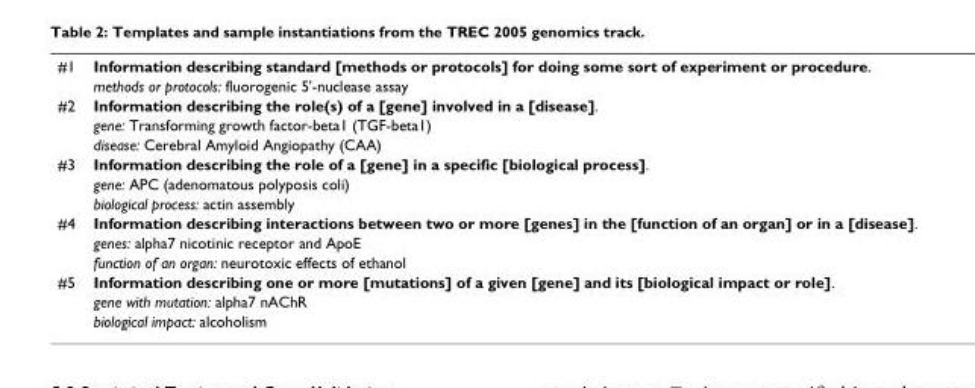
<table><tbody><tr><td rowspan="2">#1</td><td>Information describing standard [methods or protocols] for doing some sort of experiment or procedure.</td></tr><tr><td>methods or protocols: fluorogenic 5&#x27;-nuclease assay</td></tr><tr><td rowspan="3">#2</td><td>Information describing the role(s) of a [gene] involved in a [disease].</td></tr><tr><td>gene: Transforming growth factor-beta1 (TGF-beta1)</td></tr><tr><td>disease: Cerebral Amyloid Angiopathy (CAA)</td></tr><tr><td rowspan="3">#3</td><td>Information describing the role of a [gene] in a specific [biological process].</td></tr><tr><td>gene: APC (adenomatous polyposis coli)</td></tr><tr><td>biological process: actin assembly</td></tr><tr><td rowspan="3">#4</td><td>Information describing interactions between two or more [genes] in the [function of an organ] or in a [disease].</td></tr><tr><td>genes: alpha7 nicotinic receptor and ApoE</td></tr><tr><td>function of an organ: neurotoxic effects of ethanol</td></tr><tr><td rowspan="3">#5</td><td>Information describing one or more [mutations] of a given [gene] and its [biological impact or role].</td></tr><tr><td>gene with mutation: alpha7 nAChR</td></tr><tr><td>biological impact: alcoholism</td></tr></tbody></table>